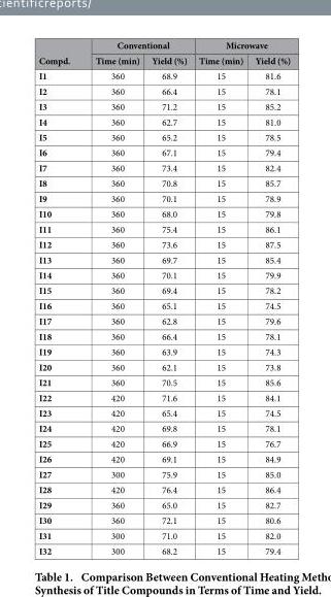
<table><thead><tr><td rowspan="2">Compd.</td><td colspan="2">Conventional</td><td colspan="2">Microwave</td></tr><tr><td>Time (min)</td><td>Yield (%)</td><td>Time (min)</td><td>Yield (%)</td></tr></thead><tbody><tr><td>I1</td><td>360</td><td>68.9</td><td>15</td><td>81.6</td></tr><tr><td>I2</td><td>360</td><td>66.4</td><td>15</td><td>78.1</td></tr><tr><td>I3</td><td>360</td><td>71.2</td><td>15</td><td>85.2</td></tr><tr><td>I4</td><td>360</td><td>62.7</td><td>15</td><td>81.0</td></tr><tr><td>I5</td><td>360</td><td>65.2</td><td>15</td><td>78.5</td></tr><tr><td>I6</td><td>360</td><td>67.1</td><td>15</td><td>79.4</td></tr><tr><td>I7</td><td>360</td><td>73.4</td><td>15</td><td>82.4</td></tr><tr><td>I8</td><td>360</td><td>70.8</td><td>15</td><td>85.7</td></tr><tr><td>I9</td><td>360</td><td>70.1</td><td>15</td><td>78.9</td></tr><tr><td>I10</td><td>360</td><td>68.0</td><td>15</td><td>79.8</td></tr><tr><td>I11</td><td>360</td><td>75.4</td><td>15</td><td>86.1</td></tr><tr><td>I12</td><td>360</td><td>73.6</td><td>15</td><td>87.5</td></tr><tr><td>I13</td><td>360</td><td>69.7</td><td>15</td><td>85.4</td></tr><tr><td>I14</td><td>360</td><td>70.1</td><td>15</td><td>79.9</td></tr><tr><td>I15</td><td>360</td><td>69.4</td><td>15</td><td>78.2</td></tr><tr><td>I16</td><td>360</td><td>65.1</td><td>15</td><td>74.5</td></tr><tr><td>I17</td><td>360</td><td>62.8</td><td>15</td><td>79.6</td></tr><tr><td>I18</td><td>360</td><td>66.4</td><td>15</td><td>78.1</td></tr><tr><td>I19</td><td>360</td><td>63.9</td><td>15</td><td>74.3</td></tr><tr><td>I20</td><td>360</td><td>62.1</td><td>15</td><td>73.8</td></tr><tr><td>I21</td><td>360</td><td>70.5</td><td>15</td><td>85.6</td></tr><tr><td>I22</td><td>420</td><td>71.6</td><td>15</td><td>84.1</td></tr><tr><td>I23</td><td>420</td><td>65.4</td><td>15</td><td>74.5</td></tr><tr><td>I24</td><td>420</td><td>69.8</td><td>15</td><td>78.1</td></tr><tr><td>I25</td><td>420</td><td>66.9</td><td>15</td><td>76.7</td></tr><tr><td>I26</td><td>420</td><td>69.1</td><td>15</td><td>84.9</td></tr><tr><td>I27</td><td>300</td><td>75.9</td><td>15</td><td>85.0</td></tr><tr><td>I28</td><td>420</td><td>76.4</td><td>15</td><td>86.4</td></tr><tr><td>I29</td><td>360</td><td>65.0</td><td>15</td><td>82.7</td></tr><tr><td>I30</td><td>360</td><td>72.1</td><td>15</td><td>80.6</td></tr><tr><td>I31</td><td>300</td><td>71.0</td><td>15</td><td>82.0</td></tr><tr><td>I32</td><td>300</td><td>68.2</td><td>15</td><td>79.4</td></tr></tbody></table>